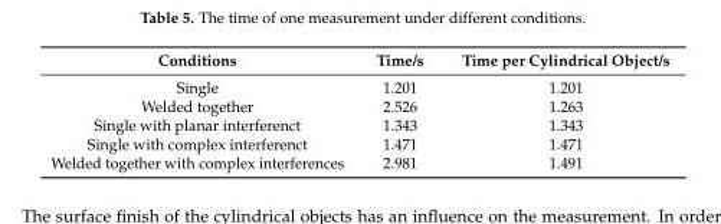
<table><thead><tr><td>Conditions</td><td>Time/s</td><td>Time per Cylindrical Object/s</td></tr></thead><tbody><tr><td>Single</td><td>1.201</td><td>1.201</td></tr><tr><td>Welded together</td><td>2.526</td><td>1.263</td></tr><tr><td>Single with planar interferenct</td><td>1.343</td><td>1.343</td></tr><tr><td>Single with complex interferenct</td><td>1.471</td><td>1.471</td></tr><tr><td>Welded together with complex interferences</td><td>2.981</td><td>1.491</td></tr></tbody></table>